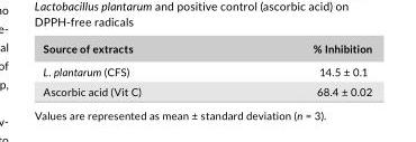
<table><thead><tr><td>Source of extracts</td><td>% Inhibition</td></tr></thead><tbody><tr><td>L. plantarum (CFS)</td><td>14.5 ± 0.1</td></tr><tr><td>Ascorbic acid (Vit C)</td><td>68.4 ± 0.02</td></tr></tbody></table>